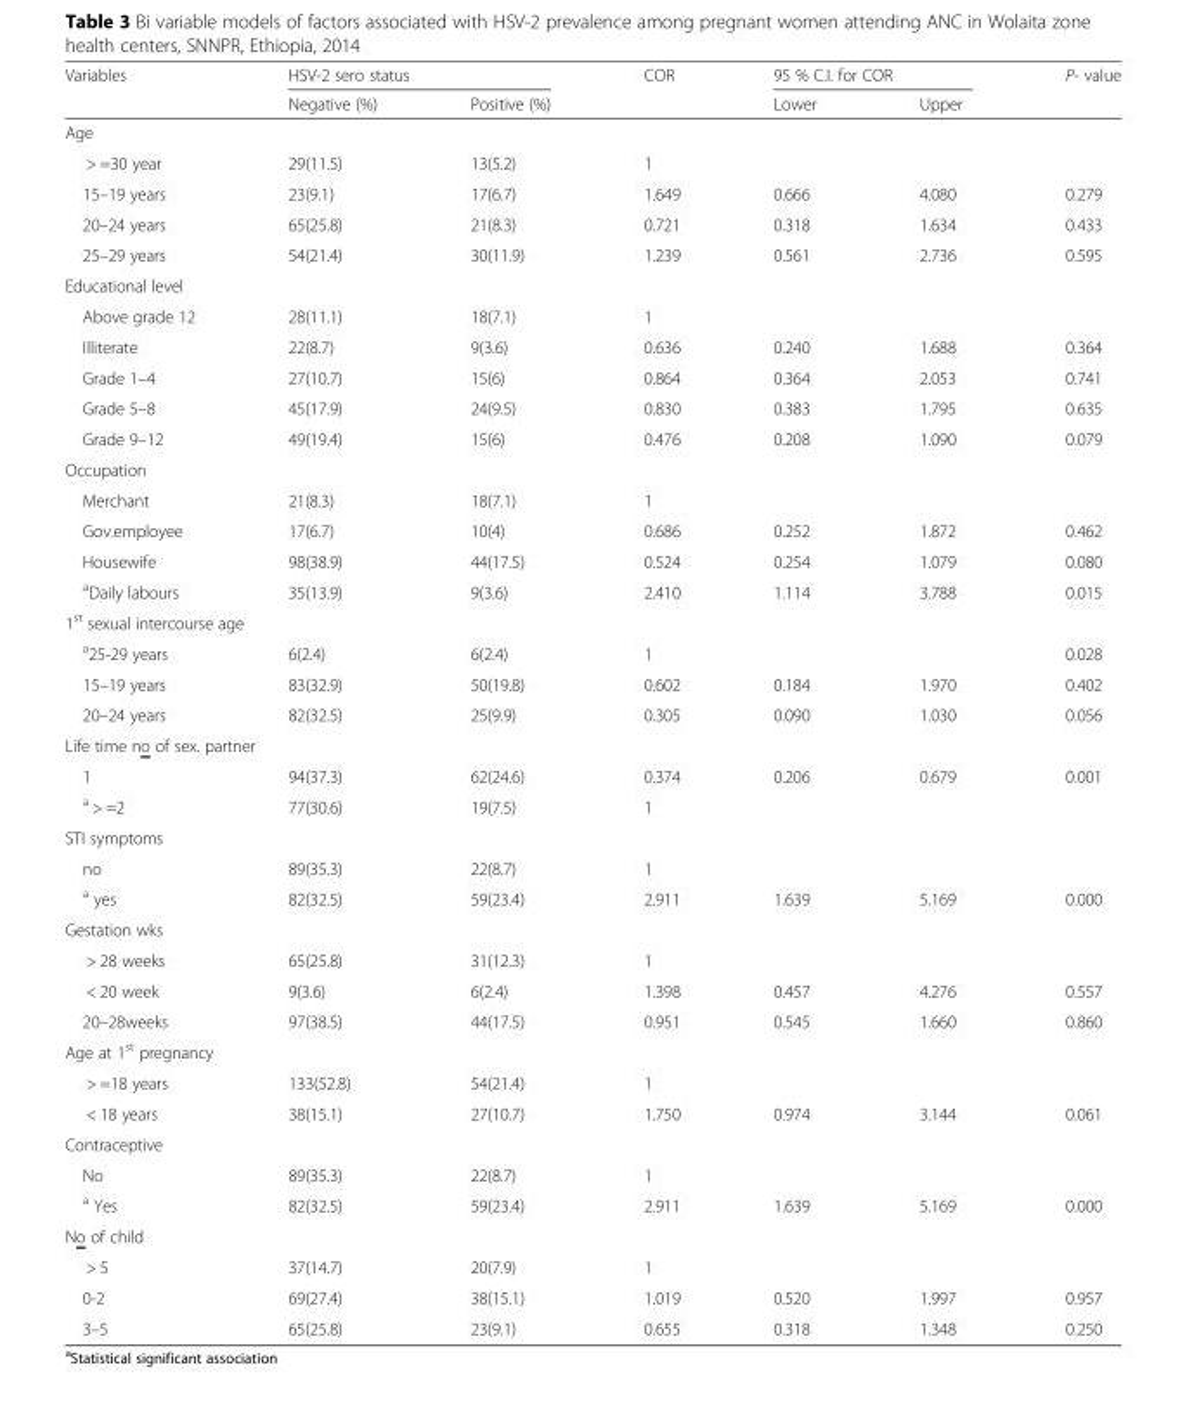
<table><thead><tr><td rowspan="2">Variables</td><td colspan="2">HSV-2 sero status</td><td rowspan="2">COR</td><td colspan="2">95 % C.I. for COR</td><td rowspan="2">P- value</td></tr><tr><td>Negative (%)</td><td>Positive (%)</td><td>Lower</td><td>Upper</td></tr></thead><tbody><tr><td colspan="7">Age</td></tr><tr><td>&gt; =30 year</td><td>29(11.5)</td><td>13(5.2)</td><td>1</td><td></td><td></td><td></td></tr><tr><td>15–19 years</td><td>23(9.1)</td><td>17(6.7)</td><td>1.649</td><td>0.666</td><td>4.080</td><td>0.279</td></tr><tr><td>20–24 years</td><td>65(25.8)</td><td>21(8.3)</td><td>0.721</td><td>0.318</td><td>1.634</td><td>0.433</td></tr><tr><td>25–29 years</td><td>54(21.4)</td><td>30(11.9)</td><td>1.239</td><td>0.561</td><td>2.736</td><td>0.595</td></tr><tr><td colspan="7">Educational level</td></tr><tr><td>Above grade 12</td><td>28(11.1)</td><td>18(7.1)</td><td>1</td><td></td><td></td><td></td></tr><tr><td>Illiterate</td><td>22(8.7)</td><td>9(3.6)</td><td>0.636</td><td>0.240</td><td>1.688</td><td>0.364</td></tr><tr><td>Grade 1–4</td><td>27(10.7)</td><td>15(6)</td><td>0.864</td><td>0.364</td><td>2.053</td><td>0.741</td></tr><tr><td>Grade 5–8</td><td>45(17.9)</td><td>24(9.5)</td><td>0.830</td><td>0.383</td><td>1.795</td><td>0.635</td></tr><tr><td>Grade 9–12</td><td>49(19.4)</td><td>15(6)</td><td>0.476</td><td>0.208</td><td>1.090</td><td>0.079</td></tr><tr><td colspan="7">Occupation</td></tr><tr><td>Merchant</td><td>21(8.3)</td><td>18(7.1)</td><td>1</td><td></td><td></td><td></td></tr><tr><td>Gov.employee</td><td>17(6.7)</td><td>10(4)</td><td>0.686</td><td>0.252</td><td>1.872</td><td>0.462</td></tr><tr><td>Housewife</td><td>98(38.9)</td><td>44(17.5)</td><td>0.524</td><td>0.254</td><td>1.079</td><td>0.080</td></tr><tr><td><sup>a</sup>Daily labours</td><td>35(13.9)</td><td>9(3.6)</td><td>2.410</td><td>1.114</td><td>3.788</td><td>0.015</td></tr><tr><td colspan="7">1<sup>st</sup> sexual intercourse age</td></tr><tr><td><sup>a</sup>25-29 years</td><td>6(2.4)</td><td>6(2.4)</td><td>1</td><td></td><td></td><td>0.028</td></tr><tr><td>15–19 years</td><td>83(32.9)</td><td>50(19.8)</td><td>0.602</td><td>0.184</td><td>1.970</td><td>0.402</td></tr><tr><td>20–24 years</td><td>82(32.5)</td><td>25(9.9)</td><td>0.305</td><td>0.090</td><td>1.030</td><td>0.056</td></tr><tr><td colspan="7">Life time no of sex. partner</td></tr><tr><td>1</td><td>94(37.3)</td><td>62(24.6)</td><td>0.374</td><td>0.206</td><td>0.679</td><td>0.001</td></tr><tr><td><sup>a</sup> &gt; =2</td><td>77(30.6)</td><td>19(7.5)</td><td>1</td><td></td><td></td><td></td></tr><tr><td colspan="7">STI symptoms</td></tr><tr><td>no</td><td>89(35.3)</td><td>22(8.7)</td><td>1</td><td></td><td></td><td></td></tr><tr><td><sup>a</sup> yes</td><td>82(32.5)</td><td>59(23.4)</td><td>2.911</td><td>1.639</td><td>5.169</td><td>0.000</td></tr><tr><td colspan="7">Gestation wks</td></tr><tr><td>&gt; 28 weeks</td><td>65(25.8)</td><td>31(12.3)</td><td>1</td><td></td><td></td><td></td></tr><tr><td>&lt; 20 week</td><td>9(3.6)</td><td>6(2.4)</td><td>1.398</td><td>0.457</td><td>4.276</td><td>0.557</td></tr><tr><td>20–28weeks</td><td>97(38.5)</td><td>44(17.5)</td><td>0.951</td><td>0.545</td><td>1.660</td><td>0.860</td></tr><tr><td colspan="7">Age at 1<sup>st</sup> pregnancy</td></tr><tr><td>&gt; =18 years</td><td>133(52.8)</td><td>54(21.4)</td><td>1</td><td></td><td></td><td></td></tr><tr><td>&lt; 18 years</td><td>38(15.1)</td><td>27(10.7)</td><td>1.750</td><td>0.974</td><td>3.144</td><td>0.061</td></tr><tr><td colspan="7">Contraceptive</td></tr><tr><td>No</td><td>89(35.3)</td><td>22(8.7)</td><td>1</td><td></td><td></td><td></td></tr><tr><td><sup>a</sup> Yes</td><td>82(32.5)</td><td>59(23.4)</td><td>2.911</td><td>1.639</td><td>5.169</td><td>0.000</td></tr><tr><td colspan="7">No of child</td></tr><tr><td>&gt; 5</td><td>37(14.7)</td><td>20(7.9)</td><td>1</td><td></td><td></td><td></td></tr><tr><td>0-2</td><td>69(27.4)</td><td>38(15.1)</td><td>1.019</td><td>0.520</td><td>1.997</td><td>0.957</td></tr><tr><td>3–5</td><td>65(25.8)</td><td>23(9.1)</td><td>0.655</td><td>0.318</td><td>1.348</td><td>0.250</td></tr></tbody></table>